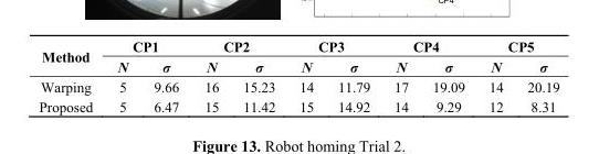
<table><thead><tr><td rowspan="2">Method</td><td colspan="2">CP1</td><td colspan="2">CP2</td><td colspan="2">CP3</td><td colspan="2">CP4</td><td colspan="2">CP5</td></tr><tr><td>N</td><td>σ</td><td>N</td><td>σ</td><td>N</td><td>σ</td><td>N</td><td>σ</td><td>N</td><td>σ</td></tr></thead><tbody><tr><td>Warping</td><td>5</td><td>9.66</td><td>16</td><td>15.23</td><td>14</td><td>11.79</td><td>17</td><td>19.09</td><td>14</td><td>20.19</td></tr><tr><td>Proposed</td><td>5</td><td>6.47</td><td>15</td><td>11.42</td><td>15</td><td>14.92</td><td>14</td><td>9.29</td><td>12</td><td>8.31</td></tr></tbody></table>